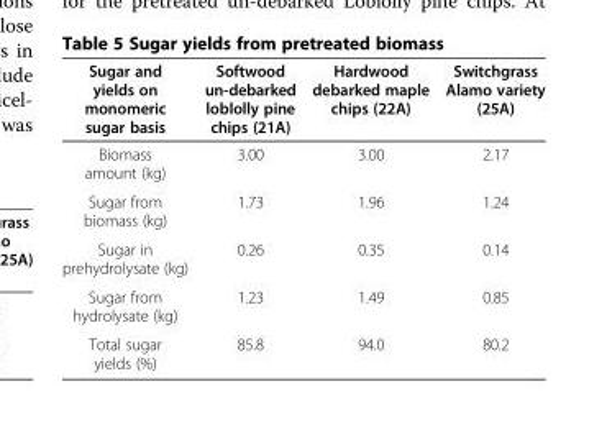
<table><thead><tr><td>Sugar and yields on monomeric sugar basis</td><td>Softwood un-debarked loblolly pine chips (21A)</td><td>Hardwood debarked maple chips (22A)</td><td>Switchgrass Alamo variety (25A)</td></tr></thead><tbody><tr><td>Biomass amount (kg)</td><td>3.00</td><td>3.00</td><td>2.17</td></tr><tr><td>Sugar from biomass (kg)</td><td>1.73</td><td>1.96</td><td>1.24</td></tr><tr><td>Sugar in prehydrolysate (kg)</td><td>0.26</td><td>0.35</td><td>0.14</td></tr><tr><td>Sugar from hydrolysate (kg)</td><td>1.23</td><td>1.49</td><td>0.85</td></tr><tr><td>Total sugar yields (%)</td><td>85.8</td><td>94.0</td><td>80.2</td></tr></tbody></table>